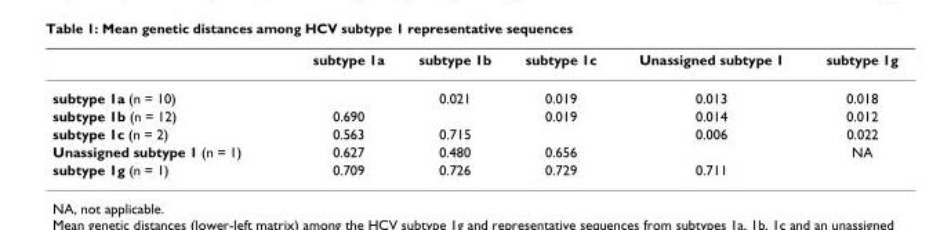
<table><thead><tr><td></td><td>subtype 1a</td><td>subtype 1b</td><td>subtype 1c</td><td>Unassigned subtype 1</td><td>subtype 1g</td></tr></thead><tbody><tr><td>subtype 1a (n = 10)</td><td></td><td>0.021</td><td>0.019</td><td>0.013</td><td>0.018</td></tr><tr><td>subtype 1b (n = 12)</td><td>0.690</td><td></td><td>0.019</td><td>0.014</td><td>0.012</td></tr><tr><td>subtype 1c (n = 2)</td><td>0.563</td><td>0.715</td><td></td><td>0.006</td><td>0.022</td></tr><tr><td>Unassigned subtype 1 (n = 1)</td><td>0.627</td><td>0.480</td><td>0.656</td><td></td><td>NA</td></tr><tr><td>subtype 1g (n = 1)</td><td>0.709</td><td>0.726</td><td>0.729</td><td>0.711</td><td></td></tr></tbody></table>